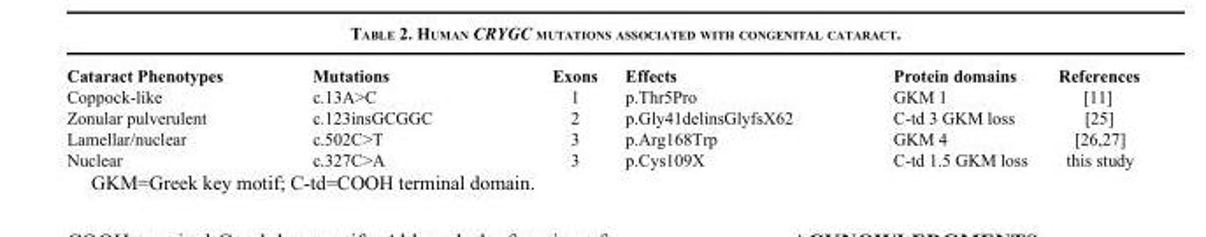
<table><tbody><tr><td>Cataract Phenotypes</td><td>Mutations</td><td>Exons</td><td>Effects</td><td>Protein domains</td><td>References</td></tr><tr><td>Coppock-like</td><td>c.13A&gt;C</td><td>1</td><td>p.Thr5Pro</td><td>GKM 1</td><td>[11]</td></tr><tr><td>Zonular pulverulent</td><td>c.123insGCGGC</td><td>2</td><td>p.Gly41delinsGlyfsX62</td><td>C-td 3 GKM loss</td><td>[25]</td></tr><tr><td>Lamellar/nuclear</td><td>c.502C&gt;T</td><td>3</td><td>p.Arg168Trp</td><td>GKM 4</td><td>[26,27]</td></tr><tr><td>Nuclear</td><td>c.327C&gt;A</td><td>3</td><td>p.Cys109X</td><td>C-td 1.5 GKM loss</td><td>this study</td></tr></tbody></table>